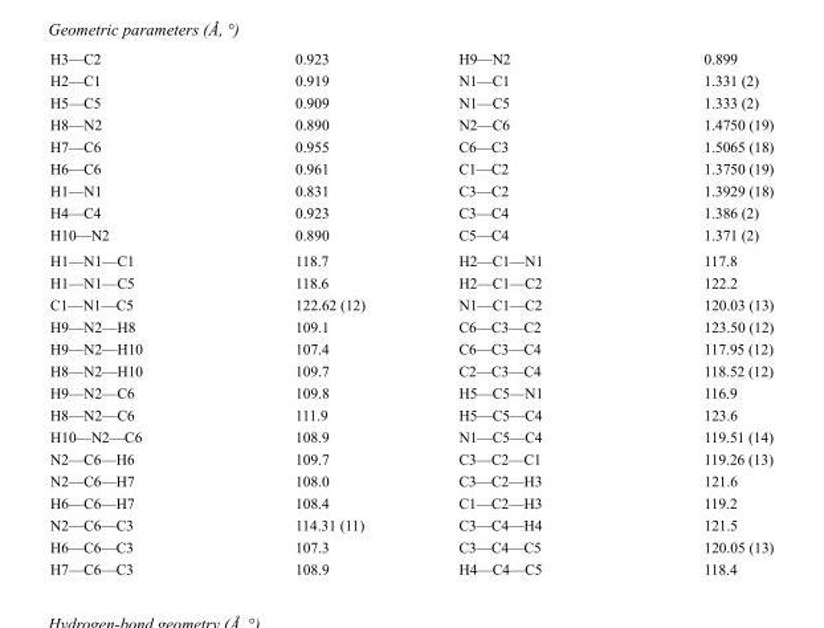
<table><tbody><tr><td>H3—C2</td><td>0.923</td><td>H9—N2</td><td>0.899</td></tr><tr><td>H2—C1</td><td>0.919</td><td>N1—C1</td><td>1.331 (2)</td></tr><tr><td>H5—C5</td><td>0.909</td><td>N1—C5</td><td>1.333 (2)</td></tr><tr><td>H8—N2</td><td>0.890</td><td>N2—C6</td><td>1.4750 (19)</td></tr><tr><td>H7—C6</td><td>0.955</td><td>C6—C3</td><td>1.5065 (18)</td></tr><tr><td>H6—C6</td><td>0.961</td><td>C1—C2</td><td>1.3750 (19)</td></tr><tr><td>H1—N1</td><td>0.831</td><td>C3—C2</td><td>1.3929 (18)</td></tr><tr><td>H4—C4</td><td>0.923</td><td>C3—C4</td><td>1.386 (2)</td></tr><tr><td>H10—N2</td><td>0.890</td><td>C5—C4</td><td>1.371 (2)</td></tr><tr><td>H1—N1—C1</td><td>118.7</td><td>H2—C1—N1</td><td>117.8</td></tr><tr><td>H1—N1—C5</td><td>118.6</td><td>H2—C1—C2</td><td>122.2</td></tr><tr><td>C1—N1—C5</td><td>122.62 (12)</td><td>N1—C1—C2</td><td>120.03 (13)</td></tr><tr><td>H9—N2—H8</td><td>109.1</td><td>C6—C3—C2</td><td>123.50 (12)</td></tr><tr><td>H9—N2—H10</td><td>107.4</td><td>C6—C3—C4</td><td>117.95 (12)</td></tr><tr><td>H8—N2—H10</td><td>109.7</td><td>C2—C3—C4</td><td>118.52 (12)</td></tr><tr><td>H9—N2—C6</td><td>109.8</td><td>H5—C5—N1</td><td>116.9</td></tr><tr><td>H8—N2—C6</td><td>111.9</td><td>H5—C5—C4</td><td>123.6</td></tr><tr><td>H10—N2—C6</td><td>108.9</td><td>N1—C5—C4</td><td>119.51 (14)</td></tr><tr><td>N2—C6—H6</td><td>109.7</td><td>C3—C2—C1</td><td>119.26 (13)</td></tr><tr><td>N2—C6—H7</td><td>108.0</td><td>C3—C2—H3</td><td>121.6</td></tr><tr><td>H6—C6—H7</td><td>108.4</td><td>C1—C2—H3</td><td>119.2</td></tr><tr><td>N2—C6—C3</td><td>114.31 (11)</td><td>C3—C4—H4</td><td>121.5</td></tr><tr><td>H6—C6—C3</td><td>107.3</td><td>C3—C4—C5</td><td>120.05 (13)</td></tr><tr><td>H7—C6—C3</td><td>108.9</td><td>H4—C4—C5</td><td>118.4</td></tr></tbody></table>